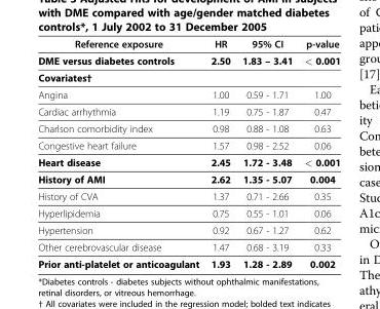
<table><thead><tr><td>Reference exposure</td><td>HR</td><td>95% CI</td><td>p-value</td></tr></thead><tbody><tr><td>DME versus diabetes controls</td><td>2.50</td><td>1.83 – 3.41</td><td>&lt; 0.001</td></tr><tr><td colspan="4">Covariates†</td></tr><tr><td>Angina</td><td>1.00</td><td>0.59 - 1.71</td><td>1.00</td></tr><tr><td>Cardiac arrhythmia</td><td>1.19</td><td>0.75 - 1.87</td><td>0.47</td></tr><tr><td>Charlson comorbidity index</td><td>0.98</td><td>0.88 - 1.08</td><td>0.63</td></tr><tr><td>Congestive heart failure</td><td>1.57</td><td>0.98 - 2.52</td><td>0.06</td></tr><tr><td>Heart disease</td><td>2.45</td><td>1.72 - 3.48</td><td>&lt; 0.001</td></tr><tr><td>History of AMI</td><td>2.62</td><td>1.35 - 5.07</td><td>0.004</td></tr><tr><td>History of CVA</td><td>1.37</td><td>0.71 - 2.66</td><td>0.35</td></tr><tr><td>Hyperlipidemia</td><td>0.75</td><td>0.55 - 1.01</td><td>0.06</td></tr><tr><td>Hypertension</td><td>0.92</td><td>0.67 - 1.27</td><td>0.62</td></tr><tr><td>Other cerebrovascular disease</td><td>1.47</td><td>0.68 - 3.19</td><td>0.33</td></tr><tr><td>Prior anti-platelet or anticoagulant</td><td>1.93</td><td>1.28 - 2.89</td><td>0.002</td></tr></tbody></table>